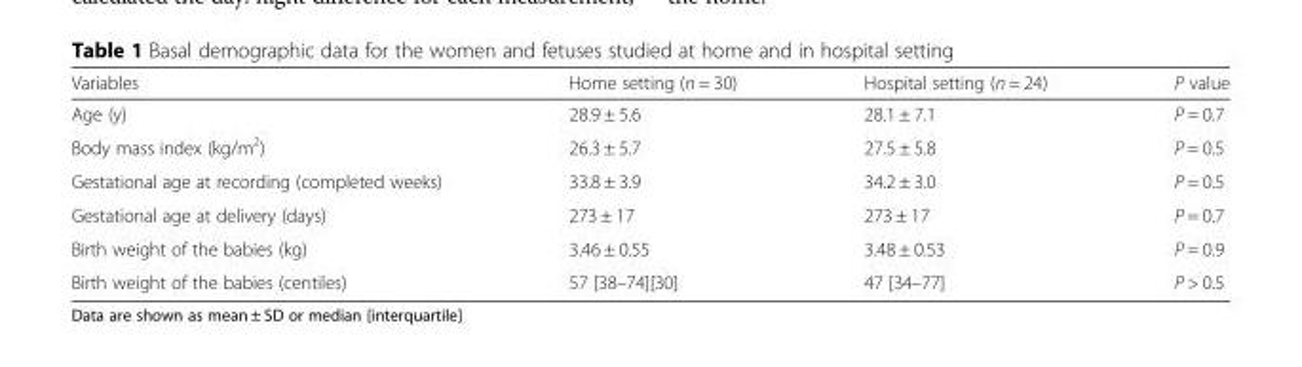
<table><thead><tr><td>Variables</td><td>Home setting (n = 30)</td><td>Hospital setting (n = 24)</td><td>P value</td></tr></thead><tbody><tr><td>Age (y)</td><td>28.9 ± 5.6</td><td>28.1 ± 7.1</td><td>P = 0.7</td></tr><tr><td>Body mass index (kg/m<sup>2</sup>)</td><td>26.3 ± 5.7</td><td>27.5 ± 5.8</td><td>P = 0.5</td></tr><tr><td>Gestational age at recording (completed weeks)</td><td>33.8 ± 3.9</td><td>34.2 ± 3.0</td><td>P = 0.5</td></tr><tr><td>Gestational age at delivery (days)</td><td>273 ± 17</td><td>273 ± 17</td><td>P = 0.7</td></tr><tr><td>Birth weight of the babies (kg)</td><td>3.46 ± 0.55</td><td>3.48 ± 0.53</td><td>P = 0.9</td></tr><tr><td>Birth weight of the babies (centiles)</td><td>57 [38–74][30]</td><td>47 [34–77]</td><td>P &gt; 0.5</td></tr></tbody></table>